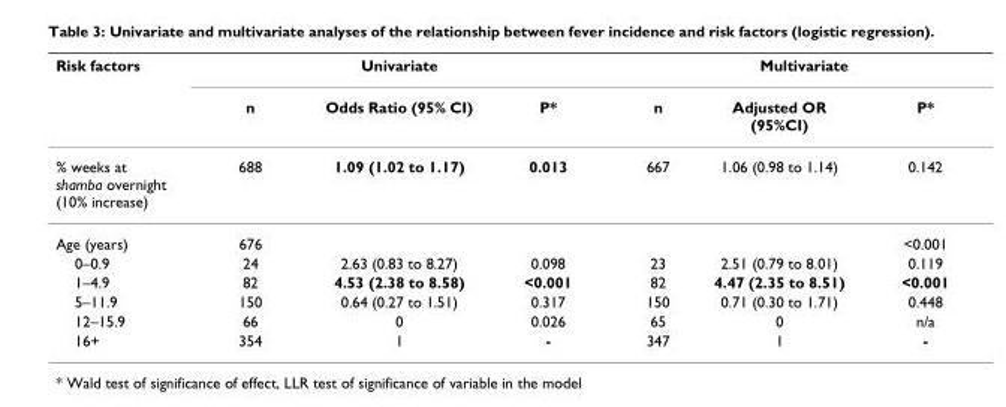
<table><thead><tr><td rowspan="2">Risk factors</td><td colspan="3">Univariate</td><td colspan="3">Multivariate</td></tr><tr><td>n</td><td>Odds Ratio (95% CI)</td><td>P*</td><td>n</td><td>Adjusted OR (95%CI)</td><td>P*</td></tr></thead><tbody><tr><td>% weeks at shamba overnight (10% increase)</td><td>688</td><td>1.09 (1.02 to 1.17)</td><td>0.013</td><td>667</td><td>1.06 (0.98 to 1.14)</td><td>0.142</td></tr><tr><td>Age (years)</td><td>676</td><td></td><td></td><td></td><td></td><td>&lt;0.001</td></tr><tr><td>0–0.9</td><td>24</td><td>2.63 (0.83 to 8.27)</td><td>0.098</td><td>23</td><td>2.51 (0.79 to 8.01)</td><td>0.119</td></tr><tr><td>1–4.9</td><td>82</td><td>4.53 (2.38 to 8.58)</td><td>&lt;0.001</td><td>82</td><td>4.47 (2.35 to 8.51)</td><td>&lt;0.001</td></tr><tr><td>5–11.9</td><td>150</td><td>0.64 (0.27 to 1.51)</td><td>0.317</td><td>150</td><td>0.71 (0.30 to 1.71)</td><td>0.448</td></tr><tr><td>12–15.9</td><td>66</td><td>0</td><td>0.026</td><td>65</td><td>0</td><td>n/a</td></tr><tr><td>16+</td><td>354</td><td>1</td><td>-</td><td>347</td><td>1</td><td>-</td></tr></tbody></table>